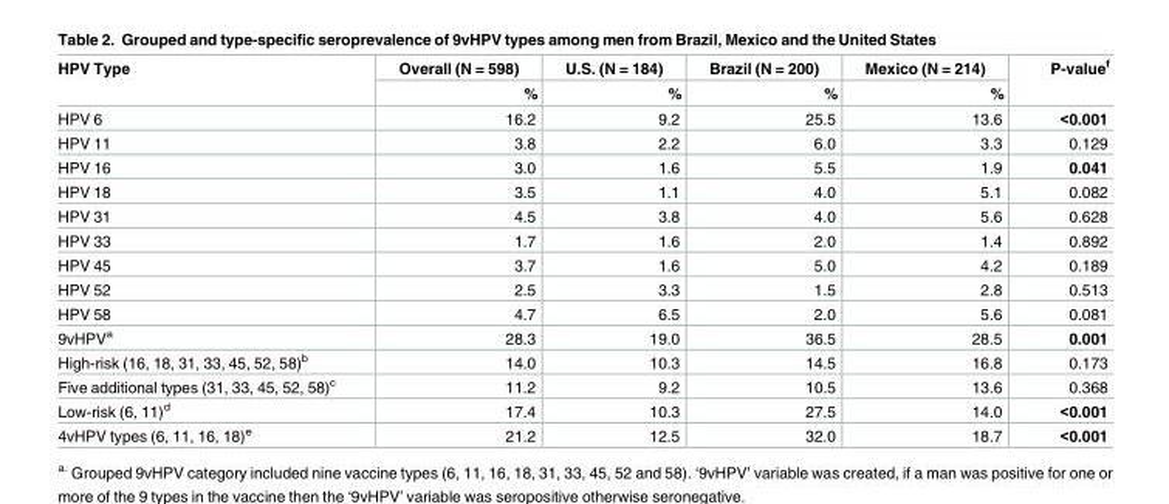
<table><thead><tr><td rowspan="2">HPV Type</td><td rowspan="2">Overall (N = 598) %</td><td rowspan="2">U.S. (N = 184) %</td><td rowspan="2">Brazil (N = 200) %</td><td rowspan="2">Mexico (N = 214) %</td><td rowspan="2">P-value<sup>f</sup></td></tr><tr></tr></thead><tbody><tr><td>HPV 6</td><td>16.2</td><td>9.2</td><td>25.5</td><td>13.6</td><td>&lt;0.001</td></tr><tr><td>HPV 11</td><td>3.8</td><td>2.2</td><td>6.0</td><td>3.3</td><td>0.129</td></tr><tr><td>HPV 16</td><td>3.0</td><td>1.6</td><td>5.5</td><td>1.9</td><td>0.041</td></tr><tr><td>HPV 18</td><td>3.5</td><td>1.1</td><td>4.0</td><td>5.1</td><td>0.082</td></tr><tr><td>HPV 31</td><td>4.5</td><td>3.8</td><td>4.0</td><td>5.6</td><td>0.628</td></tr><tr><td>HPV 33</td><td>1.7</td><td>1.6</td><td>2.0</td><td>1.4</td><td>0.892</td></tr><tr><td>HPV 45</td><td>3.7</td><td>1.6</td><td>5.0</td><td>4.2</td><td>0.189</td></tr><tr><td>HPV 52</td><td>2.5</td><td>3.3</td><td>1.5</td><td>2.8</td><td>0.513</td></tr><tr><td>HPV 58</td><td>4.7</td><td>6.5</td><td>2.0</td><td>5.6</td><td>0.081</td></tr><tr><td>9vHPV<sup>a</sup></td><td>28.3</td><td>19.0</td><td>36.5</td><td>28.5</td><td>0.001</td></tr><tr><td>High-risk (16, 18, 31, 33, 45, 52, 58)<sup>b</sup></td><td>14.0</td><td>10.3</td><td>14.5</td><td>16.8</td><td>0.173</td></tr><tr><td>Five additional types (31, 33, 45, 52, 58)<sup>c</sup></td><td>11.2</td><td>9.2</td><td>10.5</td><td>13.6</td><td>0.368</td></tr><tr><td>Low-risk (6, 11)<sup>d</sup></td><td>17.4</td><td>10.3</td><td>27.5</td><td>14.0</td><td>&lt;0.001</td></tr><tr><td>4vHPV types (6, 11, 16, 18)<sup>e</sup></td><td>21.2</td><td>12.5</td><td>32.0</td><td>18.7</td><td>&lt;0.001</td></tr></tbody></table>